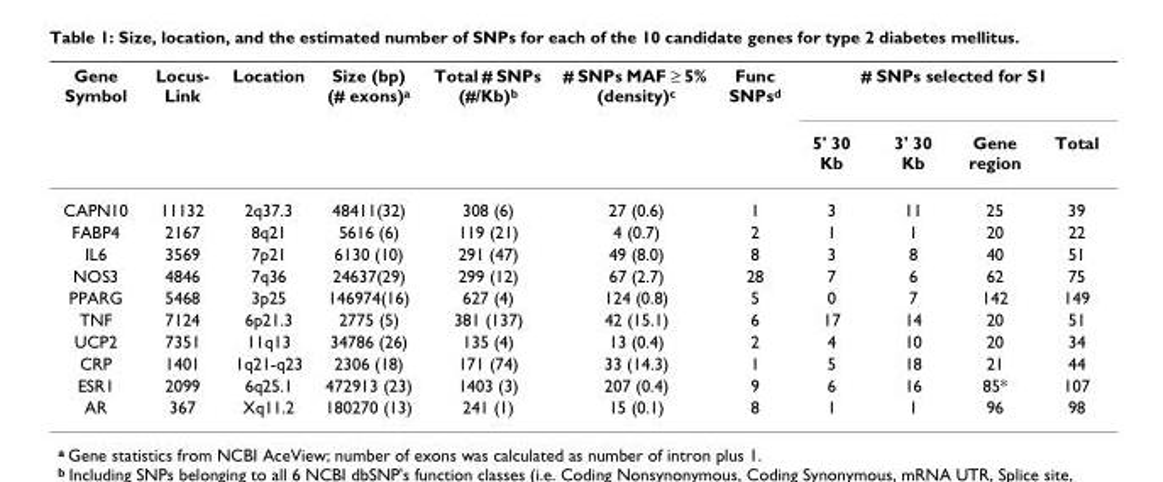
<table><thead><tr><td rowspan="2">Gene Symbol</td><td rowspan="2">Locus- Link</td><td rowspan="2">Location</td><td rowspan="2">Size (bp) (# exons)a</td><td rowspan="2">Total # SNPs (#/Kb)b</td><td rowspan="2"># SNPs MAF ≥ 5% (density)c</td><td rowspan="2">Func SNPsd</td><td colspan="4"># SNPs selected for S1</td></tr><tr><td>5&#x27; 30 Kb</td><td>3&#x27; 30 Kb</td><td>Gene region</td><td>Total</td></tr></thead><tbody><tr><td>CAPN10</td><td>11132</td><td>2q37.3</td><td>48411(32)</td><td>308 (6)</td><td>27 (0.6)</td><td>1</td><td>3</td><td>11</td><td>25</td><td>39</td></tr><tr><td>FABP4</td><td>2167</td><td>8q21</td><td>5616 (6)</td><td>119 (21)</td><td>4 (0.7)</td><td>2</td><td>1</td><td>1</td><td>20</td><td>22</td></tr><tr><td>IL6</td><td>3569</td><td>7p21</td><td>6130 (10)</td><td>291 (47)</td><td>49 (8.0)</td><td>8</td><td>3</td><td>8</td><td>40</td><td>51</td></tr><tr><td>NOS3</td><td>4846</td><td>7q36</td><td>24637(29)</td><td>299 (12)</td><td>67 (2.7)</td><td>28</td><td>7</td><td>6</td><td>62</td><td>75</td></tr><tr><td>PPARG</td><td>5468</td><td>3p25</td><td>146974(16)</td><td>627 (4)</td><td>124 (0.8)</td><td>5</td><td>0</td><td>7</td><td>142</td><td>149</td></tr><tr><td>TNF</td><td>7124</td><td>6p21.3</td><td>2775 (5)</td><td>381 (137)</td><td>42 (15.1)</td><td>6</td><td>17</td><td>14</td><td>20</td><td>51</td></tr><tr><td>UCP2</td><td>7351</td><td>11q13</td><td>34786 (26)</td><td>135 (4)</td><td>13 (0.4)</td><td>2</td><td>4</td><td>10</td><td>20</td><td>34</td></tr><tr><td>CRP</td><td>1401</td><td>1q21-q23</td><td>2306 (18)</td><td>171 (74)</td><td>33 (14.3)</td><td>1</td><td>5</td><td>18</td><td>21</td><td>44</td></tr><tr><td>ESR1</td><td>2099</td><td>6q25.1</td><td>472913 (23)</td><td>1403 (3)</td><td>207 (0.4)</td><td>9</td><td>6</td><td>16</td><td>85*</td><td>107</td></tr><tr><td>AR</td><td>367</td><td>Xq11.2</td><td>180270 (13)</td><td>241 (1)</td><td>15 (0.1)</td><td>8</td><td>1</td><td>1</td><td>96</td><td>98</td></tr></tbody></table>